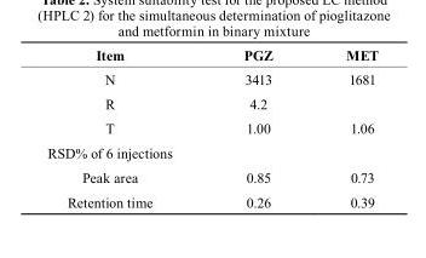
<table><thead><tr><td>Item</td><td>PGZ</td><td>MET</td></tr></thead><tbody><tr><td>N</td><td>3413</td><td>1681</td></tr><tr><td>R</td><td>4.2</td><td></td></tr><tr><td>T</td><td>1.00</td><td>1.06</td></tr><tr><td colspan="3">RSD% of 6 injections</td></tr><tr><td>Peak area</td><td>0.85</td><td>0.73</td></tr><tr><td>Retention time</td><td>0.26</td><td>0.39</td></tr></tbody></table>